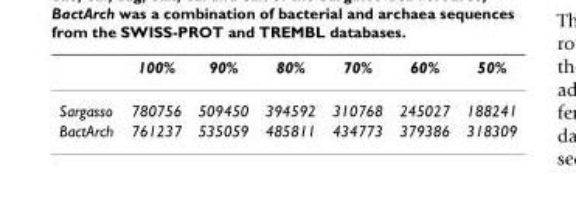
<table><thead><tr><td></td><td>100%</td><td>90%</td><td>80%</td><td>70%</td><td>60%</td><td>50%</td></tr></thead><tbody><tr><td>Sargasso</td><td>780756</td><td>509450</td><td>394592</td><td>310768</td><td>245027</td><td>188241</td></tr><tr><td>BactArch</td><td>761237</td><td>535059</td><td>485811</td><td>434773</td><td>379386</td><td>318309</td></tr></tbody></table>